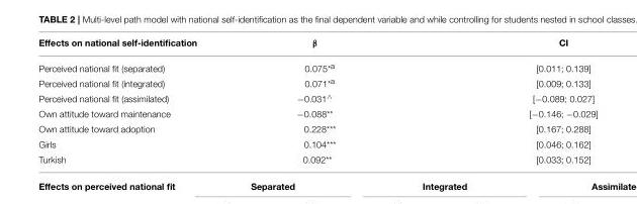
<table><thead><tr><td>Effects on national self-identification</td><td>β</td><td>CI</td></tr></thead><tbody><tr><td>Perceived national fit (separated)</td><td>0.075<sup>*a</sup></td><td>[0.011; 0.139]</td></tr><tr><td>Perceived national fit (integrated)</td><td>0.071<sup>*a</sup></td><td>[0.009; 0.133]</td></tr><tr><td>Perceived national fit (assimilated)</td><td>−0.031<sup>∧</sup></td><td>[−0.089; 0.027]</td></tr><tr><td>Own attitude toward maintenance</td><td>−0.088**</td><td>[−0.146; −0.029]</td></tr><tr><td>Own attitude toward adoption</td><td>0.228***</td><td>[0.167; 0.288]</td></tr><tr><td>Girls</td><td>0.104***</td><td>[0.046; 0.162]</td></tr><tr><td>Turkish</td><td>0.092**</td><td>[0.033; 0.152]</td></tr></tbody></table>